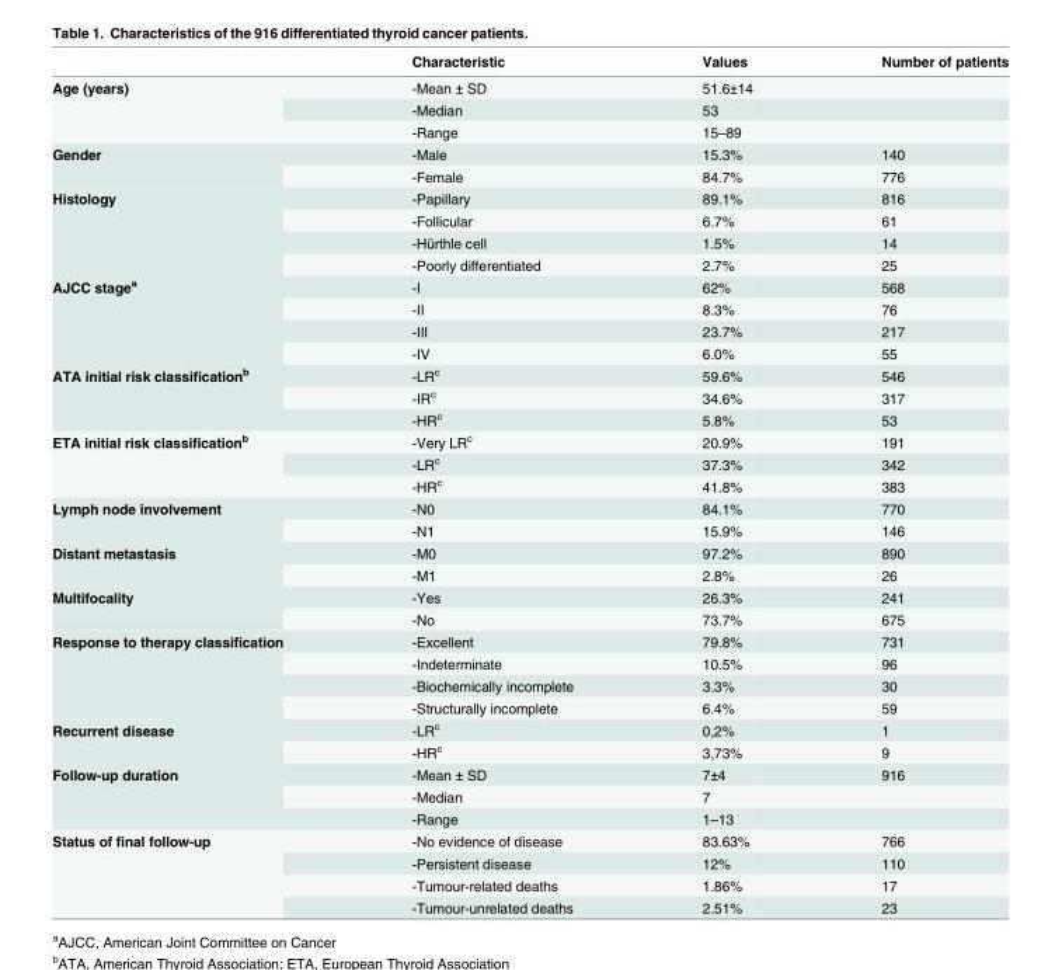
<table><thead><tr><td></td><td>Characteristic</td><td>Values</td><td>Number of patients</td></tr></thead><tbody><tr><td rowspan="3">Age (years)</td><td>-Mean ± SD</td><td>51.6±14</td><td></td></tr><tr><td>-Median</td><td>53</td><td></td></tr><tr><td>-Range</td><td>15–89</td><td></td></tr><tr><td rowspan="2">Gender</td><td>-Male</td><td>15.3%</td><td>140</td></tr><tr><td>-Female</td><td>84.7%</td><td>776</td></tr><tr><td rowspan="4">Histology</td><td>-Papillary</td><td>89.1%</td><td>816</td></tr><tr><td>-Follicular</td><td>6.7%</td><td>61</td></tr><tr><td>-Hürthle cell</td><td>1.5%</td><td>14</td></tr><tr><td>-Poorly differentiated</td><td>2.7%</td><td>25</td></tr><tr><td rowspan="4">AJCC stage<sup>a</sup></td><td>-I</td><td>62%</td><td>568</td></tr><tr><td>-II</td><td>8.3%</td><td>76</td></tr><tr><td>-III</td><td>23.7%</td><td>217</td></tr><tr><td>-IV</td><td>6.0%</td><td>55</td></tr><tr><td rowspan="3">ATA initial risk classification<sup>b</sup></td><td>-LR<sup>c</sup></td><td>59.6%</td><td>546</td></tr><tr><td>-IR<sup>c</sup></td><td>34.6%</td><td>317</td></tr><tr><td>-HR<sup>c</sup></td><td>5.8%</td><td>53</td></tr><tr><td rowspan="3">ETA initial risk classification<sup>b</sup></td><td>-Very LR<sup>c</sup></td><td>20.9%</td><td>191</td></tr><tr><td>-LR<sup>c</sup></td><td>37.3%</td><td>342</td></tr><tr><td>-HR<sup>c</sup></td><td>41.8%</td><td>383</td></tr><tr><td rowspan="2">Lymph node involvement</td><td>-N0</td><td>84.1%</td><td>770</td></tr><tr><td>-N1</td><td>15.9%</td><td>146</td></tr><tr><td rowspan="2">Distant metastasis</td><td>-M0</td><td>97.2%</td><td>890</td></tr><tr><td>-M1</td><td>2.8%</td><td>26</td></tr><tr><td rowspan="2">Multifocality</td><td>-Yes</td><td>26.3%</td><td>241</td></tr><tr><td>-No</td><td>73.7%</td><td>675</td></tr><tr><td rowspan="4">Response to therapy classification</td><td>-Excellent</td><td>79.8%</td><td>731</td></tr><tr><td>-Indeterminate</td><td>10.5%</td><td>96</td></tr><tr><td>-Biochemically incomplete</td><td>3.3%</td><td>30</td></tr><tr><td>-Structurally incomplete</td><td>6.4%</td><td>59</td></tr><tr><td rowspan="2">Recurrent disease</td><td>-LR<sup>c</sup></td><td>0,2%</td><td>1</td></tr><tr><td>-HR<sup>c</sup></td><td>3,73%</td><td>9</td></tr><tr><td rowspan="3">Follow-up duration</td><td>-Mean ± SD</td><td>7±4</td><td>916</td></tr><tr><td>-Median</td><td>7</td><td></td></tr><tr><td>-Range</td><td>1–13</td><td></td></tr><tr><td rowspan="4">Status of final follow-up</td><td>-No evidence of disease</td><td>83.63%</td><td>766</td></tr><tr><td>-Persistent disease</td><td>12%</td><td>110</td></tr><tr><td>-Tumour-related deaths</td><td>1.86%</td><td>17</td></tr><tr><td>-Tumour-unrelated deaths</td><td>2.51%</td><td>23</td></tr></tbody></table>